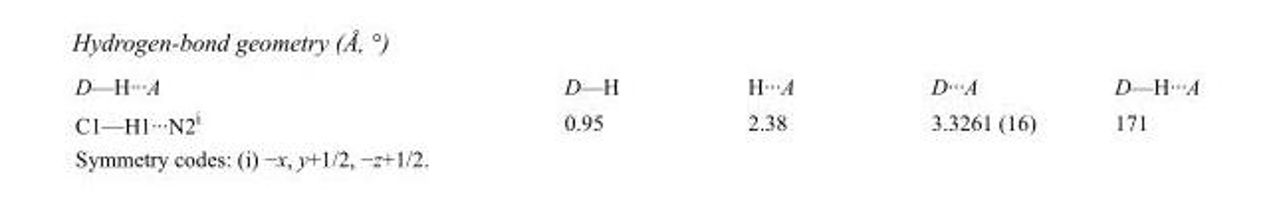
<table><tbody><tr><td>D—H···A</td><td>D—H</td><td>H···A</td><td>D···A</td><td>D—H···A</td></tr><tr><td>C1—H1···N2<sup>i</sup></td><td>0.95</td><td>2.38</td><td>3.3261 (16)</td><td>171</td></tr></tbody></table>